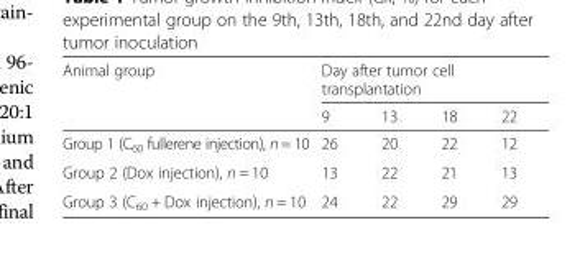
<table><thead><tr><td rowspan="2">Animal group</td><td colspan="4">Day after tumor cell transplantation</td></tr><tr><td>9</td><td>13</td><td>18</td><td>22</td></tr></thead><tbody><tr><td>Group 1 (C<sub>60</sub> fullerene injection), n = 10</td><td>26</td><td>20</td><td>22</td><td>12</td></tr><tr><td>Group 2 (Dox injection), n = 10</td><td>13</td><td>22</td><td>21</td><td>13</td></tr><tr><td>Group 3 (C<sub>60</sub> + Dox injection), n = 10</td><td>24</td><td>22</td><td>29</td><td>29</td></tr></tbody></table>